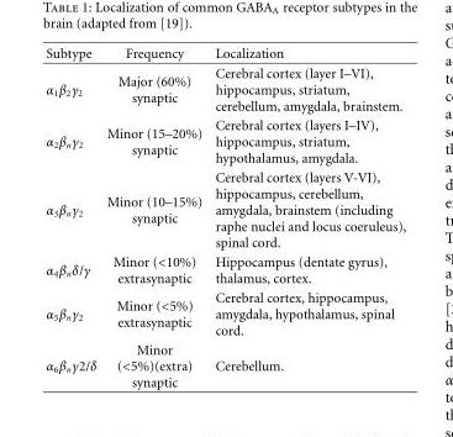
<table><thead><tr><td>Subtype</td><td>Frequency</td><td>Localization</td></tr></thead><tbody><tr><td>α<sub>1</sub>β<sub>2</sub>γ<sub>2</sub></td><td>Major (60%) synaptic</td><td>Cerebral cortex (layer I–VI), hippocampus, striatum, cerebellum, amygdala, brainstem.</td></tr><tr><td>α<sub>2</sub>β<sub>n</sub>γ<sub>2</sub></td><td>Minor (15–20%) synaptic</td><td>Cerebral cortex (layers I–IV), hippocampus, striatum, hypothalamus, amygdala.</td></tr><tr><td>α<sub>3</sub>β<sub>n</sub>γ<sub>2</sub></td><td>Minor (10–15%) synaptic</td><td>Cerebral cortex (layers V-VI), hippocampus, cerebellum, amygdala, brainstem (including raphe nuclei and locus coeruleus), spinal cord.</td></tr><tr><td>α<sub>4</sub>β<sub>n</sub>δ/γ</td><td>Minor (&lt;10%) extrasynaptic</td><td>Hippocampus (dentate gyrus), thalamus, cortex.</td></tr><tr><td>α<sub>5</sub>β<sub>n</sub>γ<sub>2</sub></td><td>Minor (&lt;5%) extrasynaptic</td><td>Cerebral cortex, hippocampus, amygdala, hypothalamus, spinal cord.</td></tr><tr><td>α<sub>6</sub>β<sub>n</sub>γ2/δ</td><td>Minor (&lt;5%)(extra) synaptic</td><td>Cerebellum.</td></tr></tbody></table>